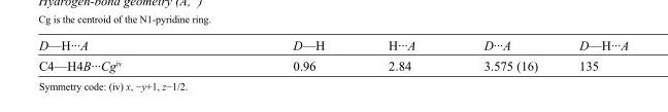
<table><tbody><tr><td>D—H···A</td><td>D—H</td><td>H···A</td><td>D···A</td><td>D—H···A</td></tr><tr><td>C4—H4B···Cg<sup>iv</sup></td><td>0.96</td><td>2.84</td><td>3.575 (16)</td><td>135</td></tr></tbody></table>